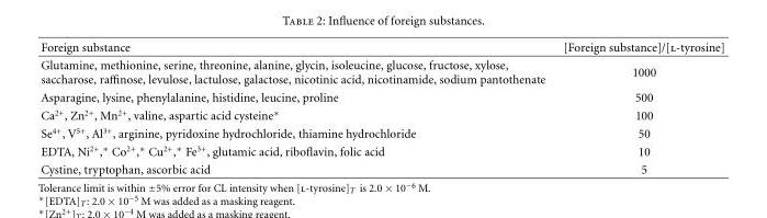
<table><thead><tr><td>Foreign substance</td><td>[Foreign substance]/[l-tyrosine]</td></tr></thead><tbody><tr><td>Glutamine, methionine, serine, threonine, alanine, glycin, isoleucine, glucose, fructose, xylose, saccharose, raffinose, levulose, lactulose, galactose, nicotinic acid, nicotinamide, sodium pantothenate</td><td>1000</td></tr><tr><td>Asparagine, lysine, phenylalanine, histidine, leucine, proline</td><td>500</td></tr><tr><td>Ca2+, Zn2+, Mn2+, valine, aspartic acid cysteine∗</td><td>100</td></tr><tr><td>Se<sup>4+</sup>, V<sup>5+</sup>, Al<sup>3+</sup>, arginine, pyridoxine hydrochloride, thiamine hydrochloride</td><td>50</td></tr><tr><td>EDTA, Ni2+,∗ Co2+,∗ Cu2+,∗ Fe3+, glutamic acid, riboflavin, folic acid</td><td>10</td></tr><tr><td>Cystine, tryptophan, ascorbic acid</td><td>5</td></tr></tbody></table>